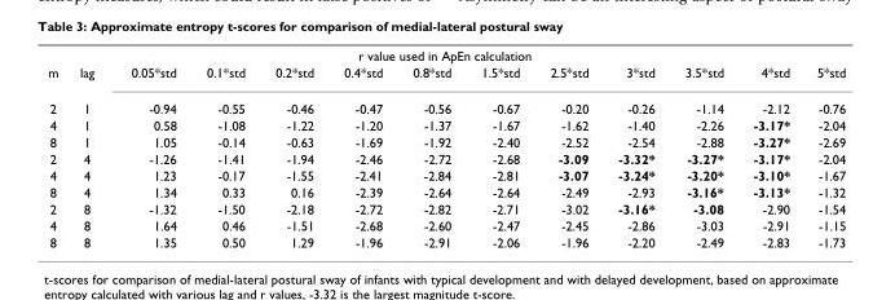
<table><tbody><tr><td colspan="13">r value used in ApEn calculation</td></tr><tr><td>m</td><td>lag</td><td>0.05*std</td><td>0.1*std</td><td>0.2*std</td><td>0.4*std</td><td>0.8*std</td><td>1.5*std</td><td>2.5*std</td><td>3*std</td><td>3.5*std</td><td>4*std</td><td>5*std</td></tr><tr><td>2</td><td>1</td><td>-0.94</td><td>-0.55</td><td>-0.46</td><td>-0.47</td><td>-0.56</td><td>-0.67</td><td>-0.20</td><td>-0.26</td><td>-1.14</td><td>-2.12</td><td>-0.76</td></tr><tr><td>4</td><td>1</td><td>0.58</td><td>-1.08</td><td>-1.22</td><td>-1.20</td><td>-1.37</td><td>-1.67</td><td>-1.62</td><td>-1.40</td><td>-2.26</td><td>-3.17*</td><td>-2.04</td></tr><tr><td>8</td><td>1</td><td>1.05</td><td>-0.14</td><td>-0.63</td><td>-1.69</td><td>-1.92</td><td>-2.40</td><td>-2.52</td><td>-2.54</td><td>-2.88</td><td>-3.27*</td><td>-2.69</td></tr><tr><td>2</td><td>4</td><td>-1.26</td><td>-1.41</td><td>-1.94</td><td>-2.46</td><td>-2.72</td><td>-2.68</td><td>-3.09</td><td>-3.32*</td><td>-3.27*</td><td>-3.17*</td><td>-2.04</td></tr><tr><td>4</td><td>4</td><td>1.23</td><td>-0.17</td><td>-1.55</td><td>-2.41</td><td>-2.84</td><td>-2.81</td><td>-3.07</td><td>-3.24*</td><td>-3.20*</td><td>-3.10*</td><td>-1.67</td></tr><tr><td>8</td><td>4</td><td>1.34</td><td>0.33</td><td>0.16</td><td>-2.39</td><td>-2.64</td><td>-2.64</td><td>-2.49</td><td>-2.93</td><td>-3.16*</td><td>-3.13*</td><td>-1.32</td></tr><tr><td>2</td><td>8</td><td>-1.32</td><td>-1.50</td><td>-2.18</td><td>-2.72</td><td>-2.82</td><td>-2.71</td><td>-3.02</td><td>-3.16*</td><td>-3.08</td><td>-2.90</td><td>-1.54</td></tr><tr><td>4</td><td>8</td><td>1.64</td><td>0.46</td><td>-1.51</td><td>-2.68</td><td>-2.60</td><td>-2.47</td><td>-2.45</td><td>-2.86</td><td>-3.03</td><td>-2.91</td><td>-1.15</td></tr><tr><td>8</td><td>8</td><td>1.35</td><td>0.50</td><td>1.29</td><td>-1.96</td><td>-2.91</td><td>-2.06</td><td>-1.96</td><td>-2.20</td><td>-2.49</td><td>-2.83</td><td>-1.73</td></tr></tbody></table>